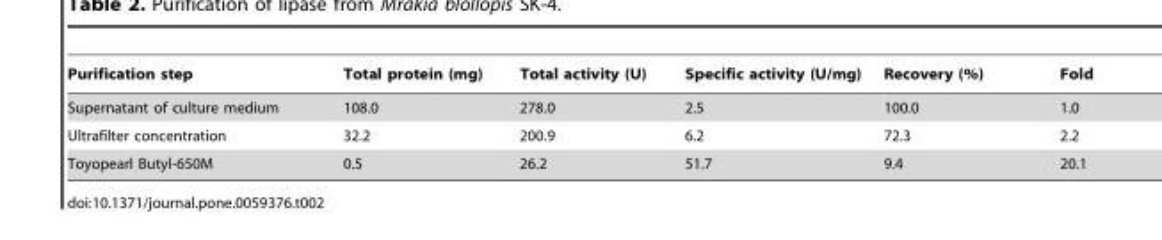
<table><thead><tr><td>Purification step</td><td>Total protein (mg)</td><td>Total activity (U)</td><td>Specific activity (U/mg)</td><td>Recovery (%)</td><td>Fold</td></tr></thead><tbody><tr><td>Supernatant of culture medium</td><td>108.0</td><td>278.0</td><td>2.5</td><td>100.0</td><td>1.0</td></tr><tr><td>Ultrafilter concentration</td><td>32.2</td><td>200.9</td><td>6.2</td><td>72.3</td><td>2.2</td></tr><tr><td>Toyopearl Butyl-650M</td><td>0.5</td><td>26.2</td><td>51.7</td><td>9.4</td><td>20.1</td></tr></tbody></table>